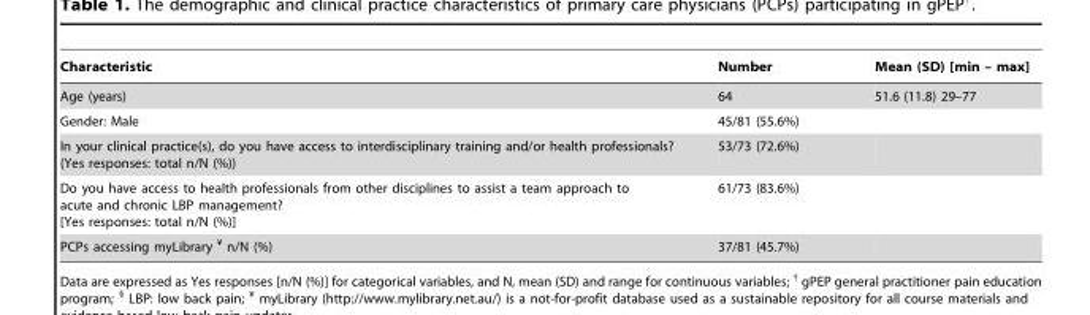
<table><thead><tr><td>Characteristic</td><td>Number</td><td>Mean (SD) [min – max]</td></tr></thead><tbody><tr><td>Age (years)</td><td>64</td><td>51.6 (11.8) 29–77</td></tr><tr><td>Gender: Male</td><td>45/81 (55.6%)</td><td></td></tr><tr><td>In your clinical practice(s), do you have access to interdisciplinary training and/or health professionals? (Yes responses: total n/N (%))</td><td>53/73 (72.6%)</td><td></td></tr><tr><td>Do you have access to health professionals from other disciplines to assist a team approach to acute and chronic LBP management? [Yes responses: total n/N (%)]</td><td>61/73 (83.6%)</td><td></td></tr><tr><td>PCPs accessing myLibrary <sup>¥</sup> n/N (%)</td><td>37/81 (45.7%)</td><td></td></tr></tbody></table>